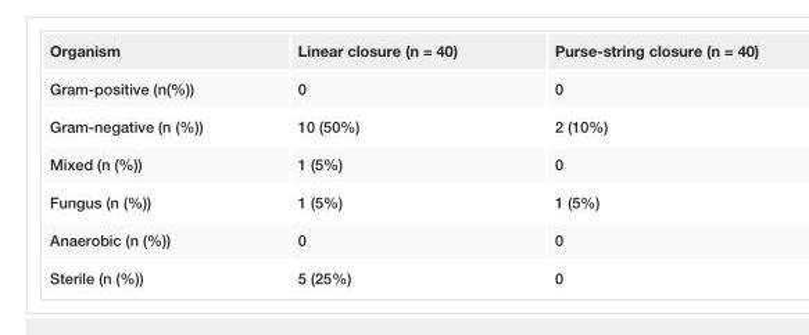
<table><tbody><tr><td>Organism</td><td>Linear closure (n = 40)</td><td>Purse-string closure (n = 40)</td></tr><tr><td>Gram-positive (n(%))</td><td>0</td><td>0</td></tr><tr><td>Gram-negative (n (%))</td><td>10 (50%)</td><td>2 (10%)</td></tr><tr><td>Mixed (n (%))</td><td>1 (5%)</td><td>0</td></tr><tr><td>Fungus (n (%))</td><td>1 (5%)</td><td>1 (5%)</td></tr><tr><td>Anaerobic (n (%))</td><td>0</td><td>0</td></tr><tr><td>Sterile (n (%))</td><td>5 (25%)</td><td>0</td></tr></tbody></table>